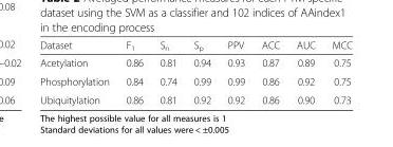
<table><thead><tr><td>Dataset</td><td>F<sub>1</sub></td><td>S<sub>n</sub></td><td>S<sub>p</sub></td><td>PPV</td><td>ACC</td><td>AUC</td><td>MCC</td></tr></thead><tbody><tr><td>Acetylation</td><td>0.86</td><td>0.81</td><td>0.94</td><td>0.93</td><td>0.87</td><td>0.89</td><td>0.75</td></tr><tr><td>Phosphorylation</td><td>0.84</td><td>0.74</td><td>0.99</td><td>0.99</td><td>0.86</td><td>0.92</td><td>0.75</td></tr><tr><td>Ubiquitylation</td><td>0.86</td><td>0.81</td><td>0.92</td><td>0.92</td><td>0.86</td><td>0.90</td><td>0.73</td></tr></tbody></table>